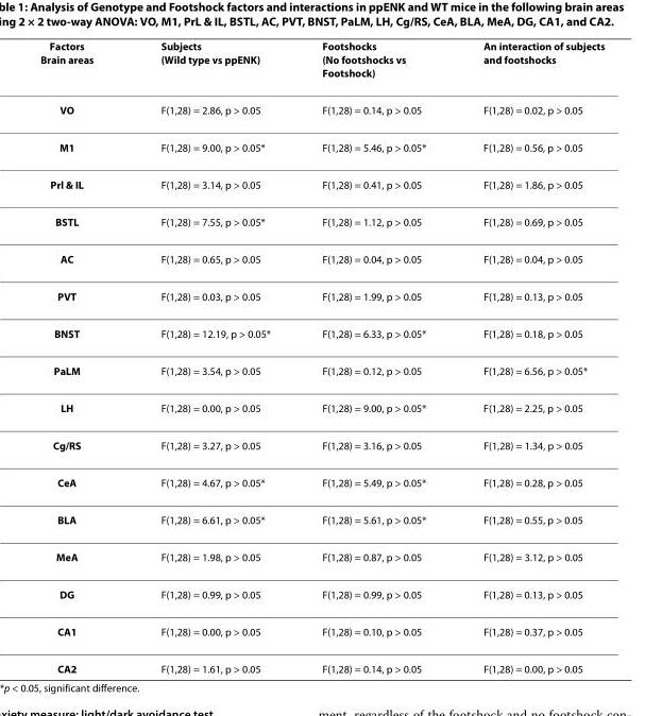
<table><thead><tr><td>Factors Brain areas</td><td>Subjects (Wild type vs ppENK)</td><td>Footshocks (No footshocks vs Footshock)</td><td>An interaction of subjects and footshocks</td></tr></thead><tbody><tr><td>VO</td><td>F(1,28) = 2.86, p &gt; 0.05</td><td>F(1,28) = 0.14, p &gt; 0.05</td><td>F(1,28) = 0.02, p &gt; 0.05</td></tr><tr><td>M1</td><td>F(1,28) = 9.00, p &gt; 0.05*</td><td>F(1,28) = 5.46, p &gt; 0.05*</td><td>F(1,28) = 0.56, p &gt; 0.05</td></tr><tr><td>Prl &amp; IL</td><td>F(1,28) = 3.14, p &gt; 0.05</td><td>F(1,28) = 0.41, p &gt; 0.05</td><td>F(1,28) = 1.86, p &gt; 0.05</td></tr><tr><td>BSTL</td><td>F(1,28) = 7.55, p &gt; 0.05*</td><td>F(1,28) = 1.12, p &gt; 0.05</td><td>F(1,28) = 0.69, p &gt; 0.05</td></tr><tr><td>AC</td><td>F(1,28) = 0.65, p &gt; 0.05</td><td>F(1,28) = 0.04, p &gt; 0.05</td><td>F(1,28) = 0.04, p &gt; 0.05</td></tr><tr><td>PVT</td><td>F(1,28) = 0.03, p &gt; 0.05</td><td>F(1,28) = 1.99, p &gt; 0.05</td><td>F(1,28) = 0.13, p &gt; 0.05</td></tr><tr><td>BNST</td><td>F(1,28) = 12.19, p &gt; 0.05*</td><td>F(1,28) = 6.33, p &gt; 0.05*</td><td>F(1,28) = 0.18, p &gt; 0.05</td></tr><tr><td>PaLM</td><td>F(1,28) = 3.54, p &gt; 0.05</td><td>F(1,28) = 0.12, p &gt; 0.05</td><td>F(1,28) = 6.56, p &gt; 0.05*</td></tr><tr><td>LH</td><td>F(1,28) = 0.00, p &gt; 0.05</td><td>F(1,28) = 9.00, p &gt; 0.05*</td><td>F(1,28) = 2.25, p &gt; 0.05</td></tr><tr><td>Cg/RS</td><td>F(1,28) = 3.27, p &gt; 0.05</td><td>F(1,28) = 3.16, p &gt; 0.05</td><td>F(1,28) = 1.34, p &gt; 0.05</td></tr><tr><td>CeA</td><td>F(1,28) = 4.67, p &gt; 0.05*</td><td>F(1,28) = 5.49, p &gt; 0.05*</td><td>F(1,28) = 0.28, p &gt; 0.05</td></tr><tr><td>BLA</td><td>F(1,28) = 6.61, p &gt; 0.05*</td><td>F(1,28) = 5.61, p &gt; 0.05*</td><td>F(1,28) = 0.55, p &gt; 0.05</td></tr><tr><td>MeA</td><td>F(1,28) = 1.98, p &gt; 0.05</td><td>F(1,28) = 0.87, p &gt; 0.05</td><td>F(1,28) = 3.12, p &gt; 0.05</td></tr><tr><td>DG</td><td>F(1,28) = 0.99, p &gt; 0.05</td><td>F(1,28) = 0.99, p &gt; 0.05</td><td>F(1,28) = 0.13, p &gt; 0.05</td></tr><tr><td>CA1</td><td>F(1,28) = 0.00, p &gt; 0.05</td><td>F(1,28) = 0.10, p &gt; 0.05</td><td>F(1,28) = 0.37, p &gt; 0.05</td></tr><tr><td>CA2</td><td>F(1,28) = 1.61, p &gt; 0.05</td><td>F(1,28) = 0.14, p &gt; 0.05</td><td>F(1,28) = 0.00, p &gt; 0.05</td></tr></tbody></table>